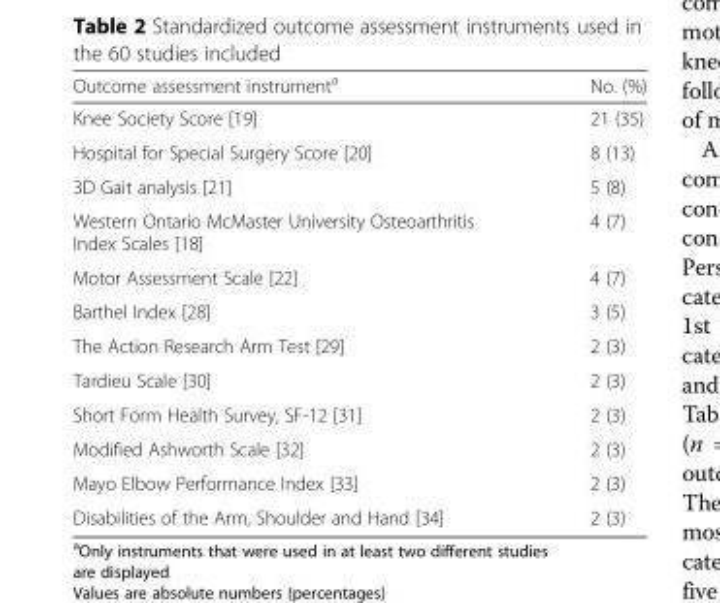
<table><thead><tr><td>Outcome assessment instrument<sup>a</sup></td><td>No. (%)</td></tr></thead><tbody><tr><td>Knee Society Score [19]</td><td>21 (35)</td></tr><tr><td>Hospital for Special Surgery Score [20]</td><td>8 (13)</td></tr><tr><td>3D Gait analysis [21]</td><td>5 (8)</td></tr><tr><td>Western Ontario McMaster University Osteoarthritis Index Scales [18]</td><td>4 (7)</td></tr><tr><td>Motor Assessment Scale [22]</td><td>4 (7)</td></tr><tr><td>Barthel Index [28]</td><td>3 (5)</td></tr><tr><td>The Action Research Arm Test [29]</td><td>2 (3)</td></tr><tr><td>Tardieu Scale [30]</td><td>2 (3)</td></tr><tr><td>Short Form Health Survey, SF-12 [31]</td><td>2 (3)</td></tr><tr><td>Modified Ashworth Scale [32]</td><td>2 (3)</td></tr><tr><td>Mayo Elbow Performance Index [33]</td><td>2 (3)</td></tr><tr><td>Disabilities of the Arm, Shoulder and Hand [34]</td><td>2 (3)</td></tr></tbody></table>